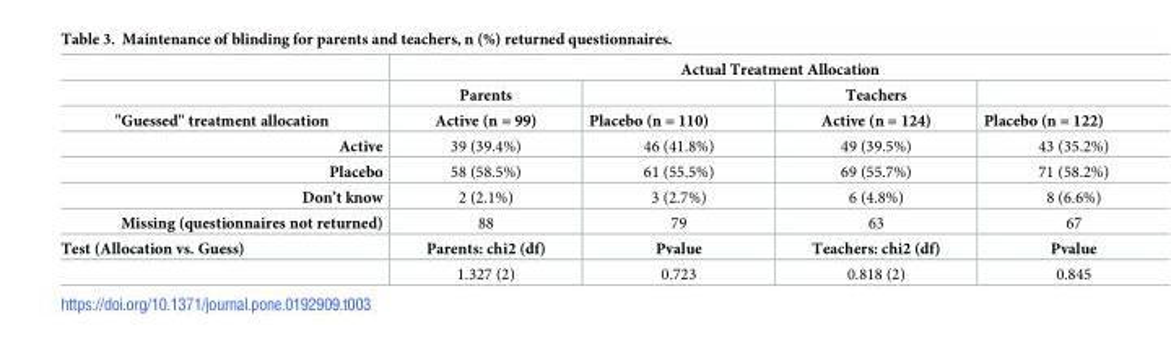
<table><thead><tr><td rowspan="2"></td><td colspan="4">Actual Treatment Allocation</td></tr><tr><td>Parents</td><td></td><td>Teachers</td><td></td></tr></thead><tbody><tr><td>&quot;Guessed&quot; treatment allocation</td><td>Active (n = 99)</td><td>Placebo (n = 110)</td><td>Active (n = 124)</td><td>Placebo (n = 122)</td></tr><tr><td>Active</td><td>39 (39.4%)</td><td>46 (41.8%)</td><td>49 (39.5%)</td><td>43 (35.2%)</td></tr><tr><td>Placebo</td><td>58 (58.5%)</td><td>61 (55.5%)</td><td>69 (55.7%)</td><td>71 (58.2%)</td></tr><tr><td>Don’t know</td><td>2 (2.1%)</td><td>3 (2.7%)</td><td>6 (4.8%)</td><td>8 (6.6%)</td></tr><tr><td>Missing (questionnaires not returned)</td><td>88</td><td>79</td><td>63</td><td>67</td></tr><tr><td rowspan="2">Test (Allocation vs. Guess)</td><td>Parents: chi2 (df)</td><td>Pvalue</td><td>Teachers: chi2 (df)</td><td>Pvalue</td></tr><tr><td>1.327 (2)</td><td>0.723</td><td>0.818 (2)</td><td>0.845</td></tr></tbody></table>